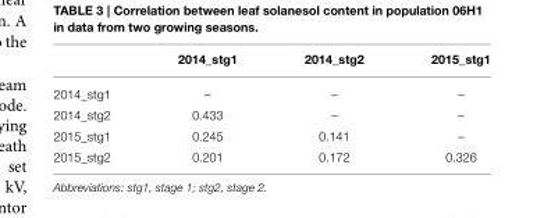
<table><thead><tr><td></td><td>2014_stg1</td><td>2014_stg2</td><td>2015_stg1</td></tr></thead><tbody><tr><td>2014_stg1</td><td>–</td><td>–</td><td>–</td></tr><tr><td>2014_stg2</td><td>0.433</td><td>–</td><td>–</td></tr><tr><td>2015_stg1</td><td>0.245</td><td>0.141</td><td>–</td></tr><tr><td>2015_stg2</td><td>0.201</td><td>0.172</td><td>0.326</td></tr></tbody></table>